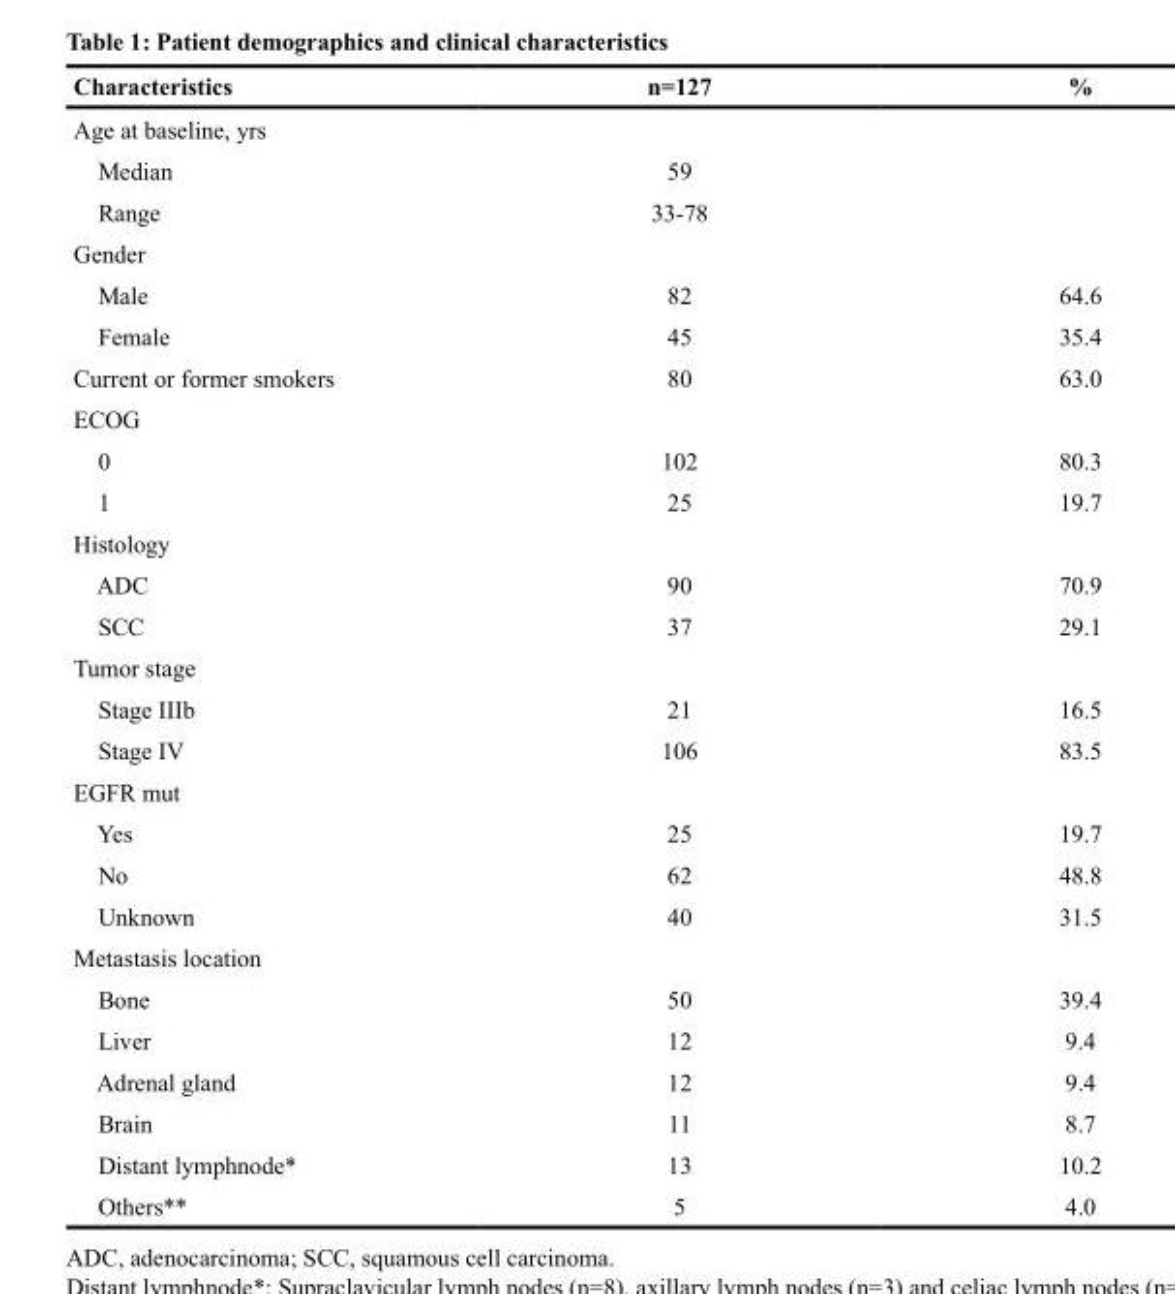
<table><thead><tr><td>Characteristics</td><td>n=127</td><td>%</td></tr></thead><tbody><tr><td colspan="3">Age at baseline, yrs</td></tr><tr><td>Median</td><td>59</td><td></td></tr><tr><td>Range</td><td>33-78</td><td></td></tr><tr><td colspan="3">Gender</td></tr><tr><td>Male</td><td>82</td><td>64.6</td></tr><tr><td>Female</td><td>45</td><td>35.4</td></tr><tr><td>Current or former smokers</td><td>80</td><td>63.0</td></tr><tr><td colspan="3">ECOG</td></tr><tr><td>0</td><td>102</td><td>80.3</td></tr><tr><td>1</td><td>25</td><td>19.7</td></tr><tr><td colspan="3">Histology</td></tr><tr><td>ADC</td><td>90</td><td>70.9</td></tr><tr><td>SCC</td><td>37</td><td>29.1</td></tr><tr><td colspan="3">Tumor stage</td></tr><tr><td>Stage IIIb</td><td>21</td><td>16.5</td></tr><tr><td>Stage IV</td><td>106</td><td>83.5</td></tr><tr><td colspan="3">EGFR mut</td></tr><tr><td>Yes</td><td>25</td><td>19.7</td></tr><tr><td>No</td><td>62</td><td>48.8</td></tr><tr><td>Unknown</td><td>40</td><td>31.5</td></tr><tr><td colspan="3">Metastasis location</td></tr><tr><td>Bone</td><td>50</td><td>39.4</td></tr><tr><td>Liver</td><td>12</td><td>9.4</td></tr><tr><td>Adrenal gland</td><td>12</td><td>9.4</td></tr><tr><td>Brain</td><td>11</td><td>8.7</td></tr><tr><td>Distant lymphnode*</td><td>13</td><td>10.2</td></tr><tr><td>Others**</td><td>5</td><td>4.0</td></tr></tbody></table>